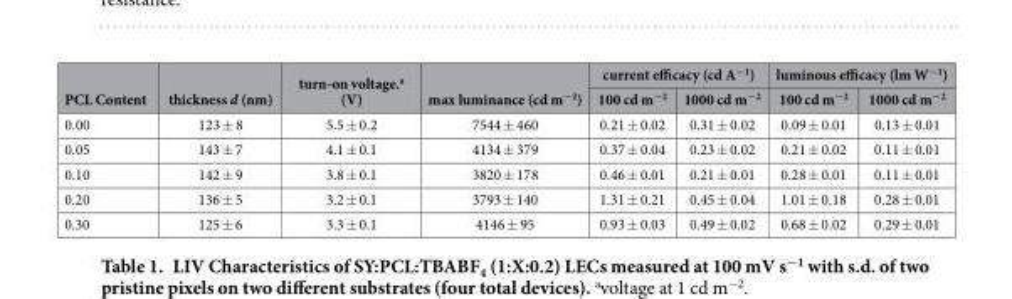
<table><thead><tr><td rowspan="2">PCL Content</td><td rowspan="2">thickness d (nm)</td><td rowspan="2">turn-on voltage.a (V)</td><td rowspan="2">max luminance (cd m<sup>−2</sup>)</td><td colspan="2">current efficacy (cd A<sup>−1</sup>)</td><td colspan="2">luminous efficacy (lm W<sup>−1</sup>)</td></tr><tr><td>100 cd m<sup>−2</sup></td><td>1000 cd m<sup>−2</sup></td><td>100 cd m<sup>−2</sup></td><td>1000 cd m<sup>−2</sup></td></tr></thead><tbody><tr><td>0.00</td><td>123 ± 8</td><td>5.5 ± 0.2</td><td>7544 ± 460</td><td>0.21 ± 0.02</td><td>0.31 ± 0.02</td><td>0.09 ± 0.01</td><td>0.13 ± 0.01</td></tr><tr><td>0.05</td><td>143 ± 7</td><td>4.1 ± 0.1</td><td>4134 ± 379</td><td>0.37 ± 0.04</td><td>0.23 ± 0.02</td><td>0.21 ± 0.02</td><td>0.11 ± 0.01</td></tr><tr><td>0.10</td><td>142 ± 9</td><td>3.8 ± 0.1</td><td>3820 ± 178</td><td>0.46 ± 0.01</td><td>0.21 ± 0.01</td><td>0.28 ± 0.01</td><td>0.11 ± 0.01</td></tr><tr><td>0.20</td><td>136 ± 5</td><td>3.2 ± 0.1</td><td>3793 ± 140</td><td>1.31 ± 0.21</td><td>0.45 ± 0.04</td><td>1.01 ± 0.18</td><td>0.28 ± 0.01</td></tr><tr><td>0.30</td><td>125 ± 6</td><td>3.3 ± 0.1</td><td>4146 ± 95</td><td>0.93 ± 0.03</td><td>0.49 ± 0.02</td><td>0.68 ± 0.02</td><td>0.29 ± 0.01</td></tr></tbody></table>